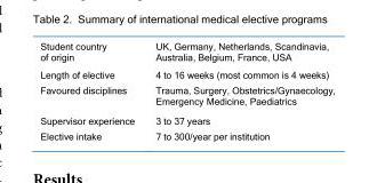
<table><tbody><tr><td>Student country of origin</td><td>UK, Germany, Netherlands, Scandinavia, Australia, Belgium, France, USA</td></tr><tr><td>Length of elective</td><td>4 to 16 weeks (most common is 4 weeks)</td></tr><tr><td>Favoured disciplines</td><td>Trauma, Surgery, Obstetrics/Gynaecology, Emergency Medicine, Paediatrics</td></tr><tr><td>Supervisor experience</td><td>3 to 37 years</td></tr><tr><td>Elective intake</td><td>7 to 300/year per institution</td></tr></tbody></table>